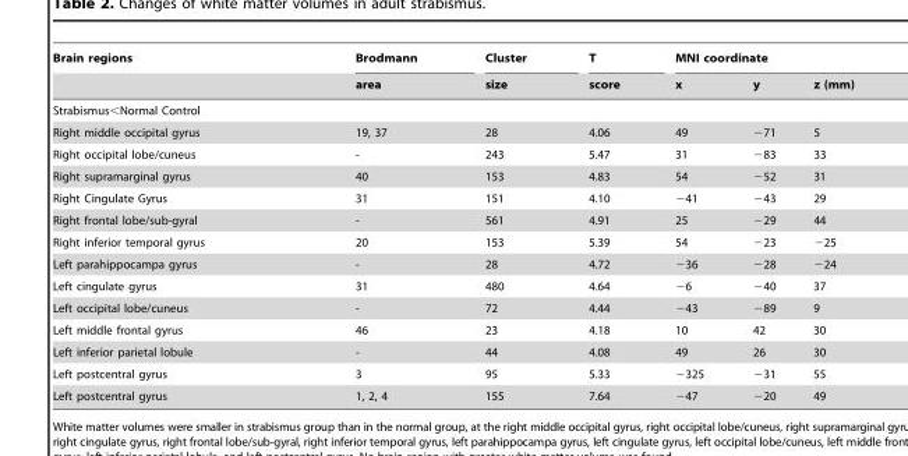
<table><thead><tr><td rowspan="2">Brain regions</td><td rowspan="2">Brodmann area</td><td rowspan="2">Cluster size</td><td rowspan="2">T score</td><td colspan="3">MNI coordinate</td></tr><tr><td>x</td><td>y</td><td>z (mm)</td></tr></thead><tbody><tr><td colspan="7">Strabismus&lt;Normal Control</td></tr><tr><td>Right middle occipital gyrus</td><td>19, 37</td><td>28</td><td>4.06</td><td>49</td><td>−71</td><td>5</td></tr><tr><td>Right occipital lobe/cuneus</td><td>-</td><td>243</td><td>5.47</td><td>31</td><td>−83</td><td>33</td></tr><tr><td>Right supramarginal gyrus</td><td>40</td><td>153</td><td>4.83</td><td>54</td><td>−52</td><td>31</td></tr><tr><td>Right Cingulate Gyrus</td><td>31</td><td>151</td><td>4.10</td><td>−41</td><td>−43</td><td>29</td></tr><tr><td>Right frontal lobe/sub-gyral</td><td>-</td><td>561</td><td>4.91</td><td>25</td><td>−29</td><td>44</td></tr><tr><td>Right inferior temporal gyrus</td><td>20</td><td>153</td><td>5.39</td><td>54</td><td>−23</td><td>−25</td></tr><tr><td>Left parahippocampa gyrus</td><td>-</td><td>28</td><td>4.72</td><td>−36</td><td>−28</td><td>−24</td></tr><tr><td>Left cingulate gyrus</td><td>31</td><td>480</td><td>4.64</td><td>−6</td><td>−40</td><td>37</td></tr><tr><td>Left occipital lobe/cuneus</td><td>-</td><td>72</td><td>4.44</td><td>−43</td><td>−89</td><td>9</td></tr><tr><td>Left middle frontal gyrus</td><td>46</td><td>23</td><td>4.18</td><td>10</td><td>42</td><td>30</td></tr><tr><td>Left inferior parietal lobule</td><td>-</td><td>44</td><td>4.08</td><td>49</td><td>26</td><td>30</td></tr><tr><td>Left postcentral gyrus</td><td>3</td><td>95</td><td>5.33</td><td>−325</td><td>−31</td><td>55</td></tr><tr><td>Left postcentral gyrus</td><td>1, 2, 4</td><td>155</td><td>7.64</td><td>−47</td><td>−20</td><td>49</td></tr></tbody></table>